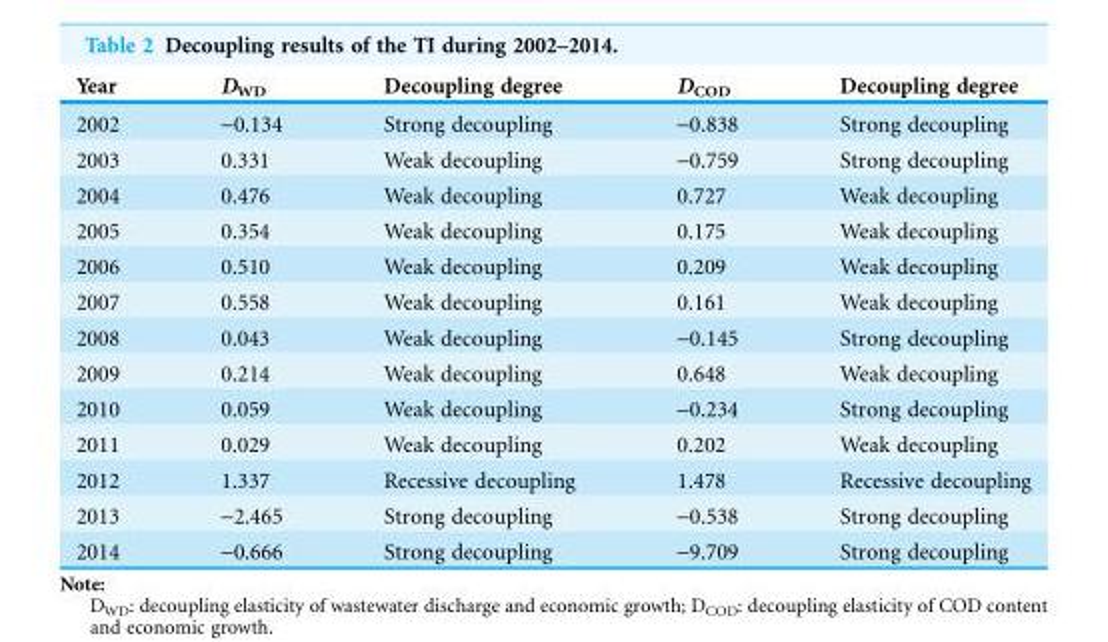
<table><thead><tr><td>Year</td><td>D<sub>WD</sub></td><td>Decoupling degree</td><td>D<sub>COD</sub></td><td>Decoupling degree</td></tr></thead><tbody><tr><td>2002</td><td>-0.134</td><td>Strong decoupling</td><td>-0.838</td><td>Strong decoupling</td></tr><tr><td>2003</td><td>0.331</td><td>Weak decoupling</td><td>-0.759</td><td>Strong decoupling</td></tr><tr><td>2004</td><td>0.476</td><td>Weak decoupling</td><td>0.727</td><td>Weak decoupling</td></tr><tr><td>2005</td><td>0.354</td><td>Weak decoupling</td><td>0.175</td><td>Weak decoupling</td></tr><tr><td>2006</td><td>0.510</td><td>Weak decoupling</td><td>0.209</td><td>Weak decoupling</td></tr><tr><td>2007</td><td>0.558</td><td>Weak decoupling</td><td>0.161</td><td>Weak decoupling</td></tr><tr><td>2008</td><td>0.043</td><td>Weak decoupling</td><td>-0.145</td><td>Strong decoupling</td></tr><tr><td>2009</td><td>0.214</td><td>Weak decoupling</td><td>0.648</td><td>Weak decoupling</td></tr><tr><td>2010</td><td>0.059</td><td>Weak decoupling</td><td>-0.234</td><td>Strong decoupling</td></tr><tr><td>2011</td><td>0.029</td><td>Weak decoupling</td><td>0.202</td><td>Weak decoupling</td></tr><tr><td>2012</td><td>1.337</td><td>Recessive decoupling</td><td>1.478</td><td>Recessive decoupling</td></tr><tr><td>2013</td><td>-2.465</td><td>Strong decoupling</td><td>-0.538</td><td>Strong decoupling</td></tr><tr><td>2014</td><td>-0.666</td><td>Strong decoupling</td><td>-9.709</td><td>Strong decoupling</td></tr></tbody></table>